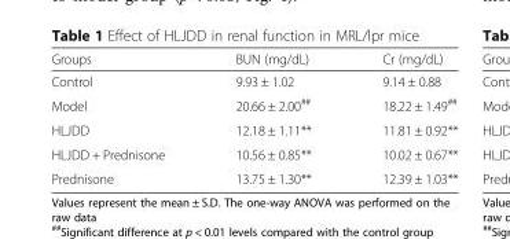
<table><thead><tr><td>Groups</td><td>BUN (mg/dL)</td><td>Cr (mg/dL)</td></tr></thead><tbody><tr><td>Control</td><td>9.93 ± 1.02</td><td>9.14 ± 0.88</td></tr><tr><td>Model</td><td>20.66 ± 2.00<sup>##</sup></td><td>18.22 ± 1.49<sup>##</sup></td></tr><tr><td>HLJDD</td><td>12.18 ± 1.11**</td><td>11.81 ± 0.92**</td></tr><tr><td>HLJDD + Prednisone</td><td>10.56 ± 0.85**</td><td>10.02 ± 0.67**</td></tr><tr><td>Prednisone</td><td>13.75 ± 1.30**</td><td>12.39 ± 1.03**</td></tr></tbody></table>